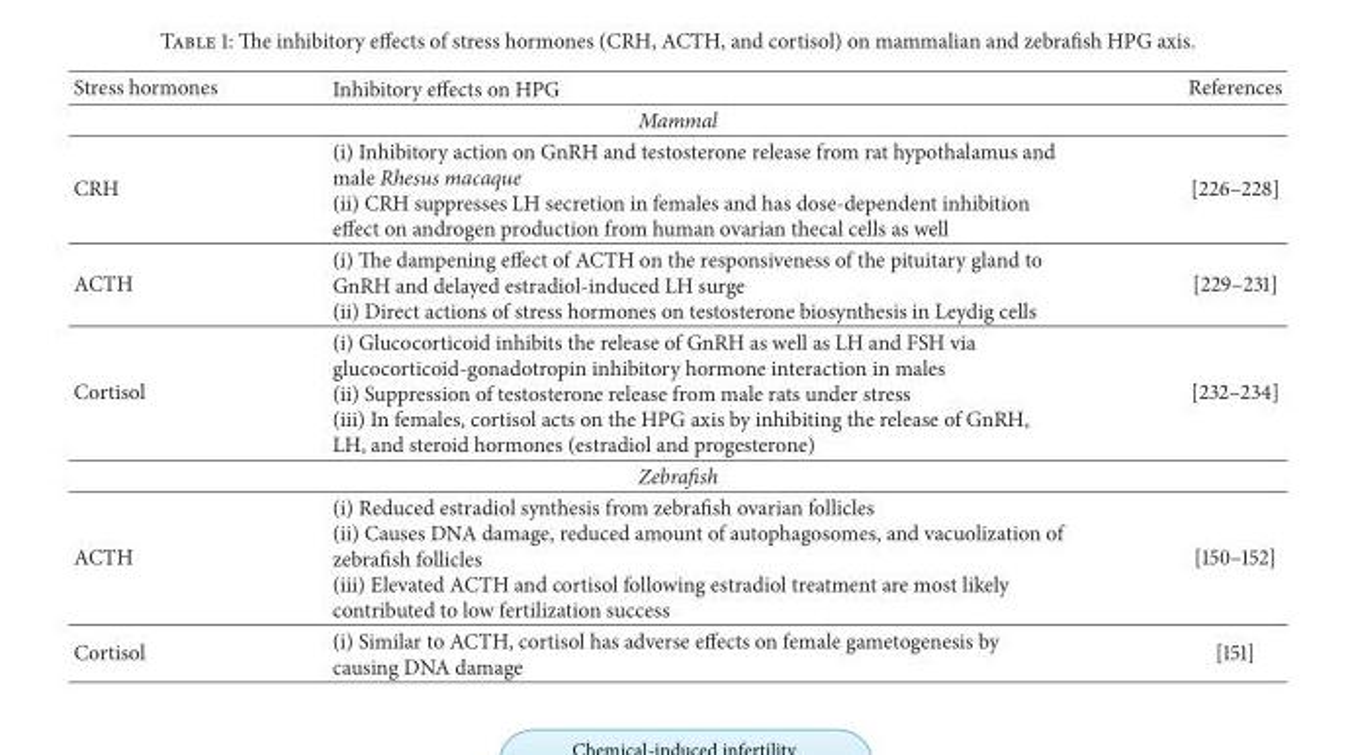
<table><thead><tr><td>Stress hormones</td><td>Inhibitory effects on HPG</td><td>References</td></tr></thead><tbody><tr><td colspan="3">Mammal</td></tr><tr><td>CRH</td><td>(i) Inhibitory action on GnRH and testosterone release from rat hypothalamus and male Rhesus macaque (ii) CRH suppresses LH secretion in females and has dose-dependent inhibition effect on androgen production from human ovarian thecal cells as well</td><td>[226–228]</td></tr><tr><td>ACTH</td><td>(i) The dampening effect of ACTH on the responsiveness of the pituitary gland to GnRH and delayed estradiol-induced LH surge (ii) Direct actions of stress hormones on testosterone biosynthesis in Leydig cells</td><td>[229–231]</td></tr><tr><td>Cortisol</td><td>(i) Glucocorticoid inhibits the release of GnRH as well as LH and FSH via glucocorticoid-gonadotropin inhibitory hormone interaction in males (ii) Suppression of testosterone release from male rats under stress (iii) In females, cortisol acts on the HPG axis by inhibiting the release of GnRH, LH, and steroid hormones (estradiol and progesterone)</td><td>[232–234]</td></tr><tr><td colspan="3">Zebrafish</td></tr><tr><td>ACTH</td><td>(i) Reduced estradiol synthesis from zebrafish ovarian follicles (ii) Causes DNA damage, reduced amount of autophagosomes, and vacuolization of zebrafish follicles (iii) Elevated ACTH and cortisol following estradiol treatment are most likely contributed to low fertilization success</td><td>[150–152]</td></tr><tr><td>Cortisol</td><td>(i) Similar to ACTH, cortisol has adverse effects on female gametogenesis by causing DNA damage</td><td>[151]</td></tr></tbody></table>